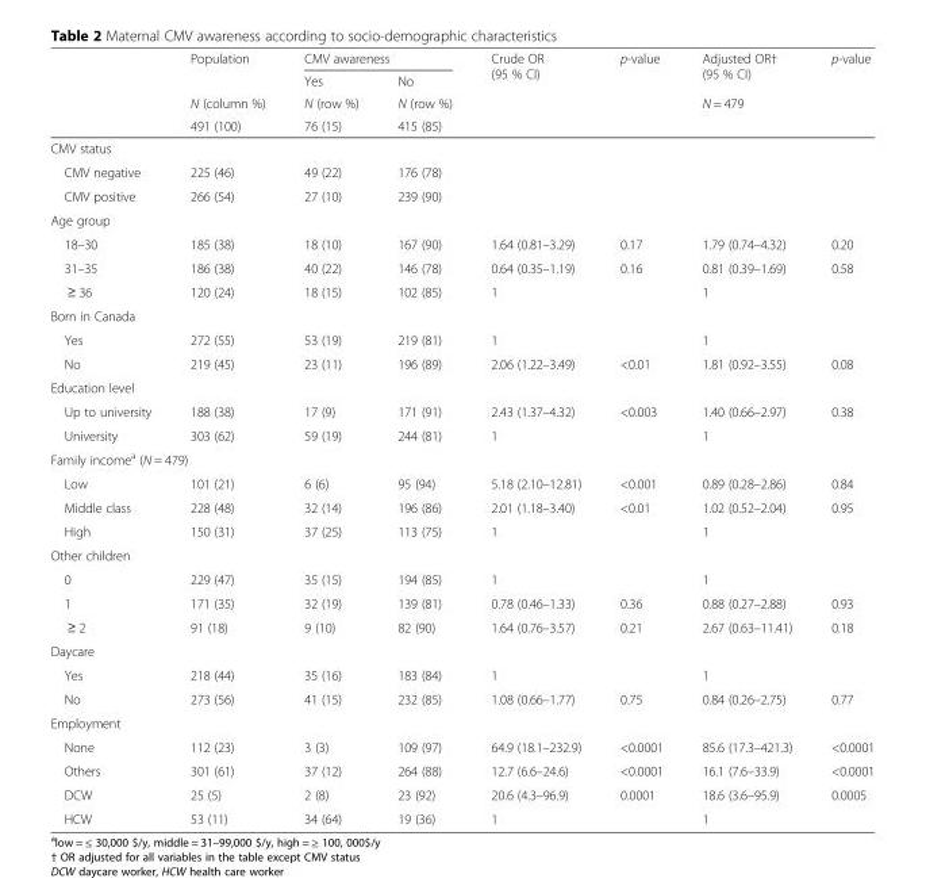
<table><thead><tr><td rowspan="4"></td><td rowspan="4">Population N (column %) 491 (100)</td><td colspan="2">CMV awareness</td><td rowspan="4">Crude OR (95 % CI)</td><td rowspan="4">p-value</td><td rowspan="4">Adjusted OR† (95 % CI) N = 479</td><td rowspan="4">p-value</td></tr><tr><td rowspan="3">Yes N (row %) 76 (15)</td><td rowspan="3">No N (row %) 415 (85)</td></tr><tr></tr><tr></tr></thead><tbody><tr><td colspan="8">CMV status</td></tr><tr><td>CMV negative</td><td>225 (46)</td><td>49 (22)</td><td>176 (78)</td><td></td><td></td><td></td><td></td></tr><tr><td>CMV positive</td><td>266 (54)</td><td>27 (10)</td><td>239 (90)</td><td></td><td></td><td></td><td></td></tr><tr><td colspan="8">Age group</td></tr><tr><td>18–30</td><td>185 (38)</td><td>18 (10)</td><td>167 (90)</td><td>1.64 (0.81–3.29)</td><td>0.17</td><td>1.79 (0.74–4.32)</td><td>0.20</td></tr><tr><td>31–35</td><td>186 (38)</td><td>40 (22)</td><td>146 (78)</td><td>0.64 (0.35–1.19)</td><td>0.16</td><td>0.81 (0.39–1.69)</td><td>0.58</td></tr><tr><td>≥ 36</td><td>120 (24)</td><td>18 (15)</td><td>102 (85)</td><td>1</td><td></td><td>1</td><td></td></tr><tr><td colspan="8">Born in Canada</td></tr><tr><td>Yes</td><td>272 (55)</td><td>53 (19)</td><td>219 (81)</td><td>1</td><td></td><td>1</td><td></td></tr><tr><td>No</td><td>219 (45)</td><td>23 (11)</td><td>196 (89)</td><td>2.06 (1.22–3.49)</td><td>&lt;0.01</td><td>1.81 (0.92–3.55)</td><td>0.08</td></tr><tr><td colspan="8">Education level</td></tr><tr><td>Up to university</td><td>188 (38)</td><td>17 (9)</td><td>171 (91)</td><td>2.43 (1.37–4.32)</td><td>&lt;0.003</td><td>1.40 (0.66–2.97)</td><td>0.38</td></tr><tr><td>University</td><td>303 (62)</td><td>59 (19)</td><td>244 (81)</td><td>1</td><td></td><td>1</td><td></td></tr><tr><td colspan="8">Family income<sup>a</sup> (N = 479)</td></tr><tr><td>Low</td><td>101 (21)</td><td>6 (6)</td><td>95 (94)</td><td>5.18 (2.10–12.81)</td><td>&lt;0.001</td><td>0.89 (0.28–2.86)</td><td>0.84</td></tr><tr><td>Middle class</td><td>228 (48)</td><td>32 (14)</td><td>196 (86)</td><td>2.01 (1.18–3.40)</td><td>&lt;0.01</td><td>1.02 (0.52–2.04)</td><td>0.95</td></tr><tr><td>High</td><td>150 (31)</td><td>37 (25)</td><td>113 (75)</td><td>1</td><td></td><td>1</td><td></td></tr><tr><td colspan="8">Other children</td></tr><tr><td>0</td><td>229 (47)</td><td>35 (15)</td><td>194 (85)</td><td>1</td><td></td><td>1</td><td></td></tr><tr><td>1</td><td>171 (35)</td><td>32 (19)</td><td>139 (81)</td><td>0.78 (0.46–1.33)</td><td>0.36</td><td>0.88 (0.27–2.88)</td><td>0.93</td></tr><tr><td>≥ 2</td><td>91 (18)</td><td>9 (10)</td><td>82 (90)</td><td>1.64 (0.76–3.57)</td><td>0.21</td><td>2.67 (0.63–11.41)</td><td>0.18</td></tr><tr><td colspan="8">Daycare</td></tr><tr><td>Yes</td><td>218 (44)</td><td>35 (16)</td><td>183 (84)</td><td>1</td><td></td><td>1</td><td></td></tr><tr><td>No</td><td>273 (56)</td><td>41 (15)</td><td>232 (85)</td><td>1.08 (0.66–1.77)</td><td>0.75</td><td>0.84 (0.26–2.75)</td><td>0.77</td></tr><tr><td colspan="8">Employment</td></tr><tr><td>None</td><td>112 (23)</td><td>3 (3)</td><td>109 (97)</td><td>64.9 (18.1–232.9)</td><td>&lt;0.0001</td><td>85.6 (17.3–421.3)</td><td>&lt;0.0001</td></tr><tr><td>Others</td><td>301 (61)</td><td>37 (12)</td><td>264 (88)</td><td>12.7 (6.6–24.6)</td><td>&lt;0.0001</td><td>16.1 (7.6–33.9)</td><td>&lt;0.0001</td></tr><tr><td>DCW</td><td>25 (5)</td><td>2 (8)</td><td>23 (92)</td><td>20.6 (4.3–96.9)</td><td>0.0001</td><td>18.6 (3.6–95.9)</td><td>0.0005</td></tr><tr><td>HCW</td><td>53 (11)</td><td>34 (64)</td><td>19 (36)</td><td>1</td><td></td><td>1</td><td></td></tr></tbody></table>